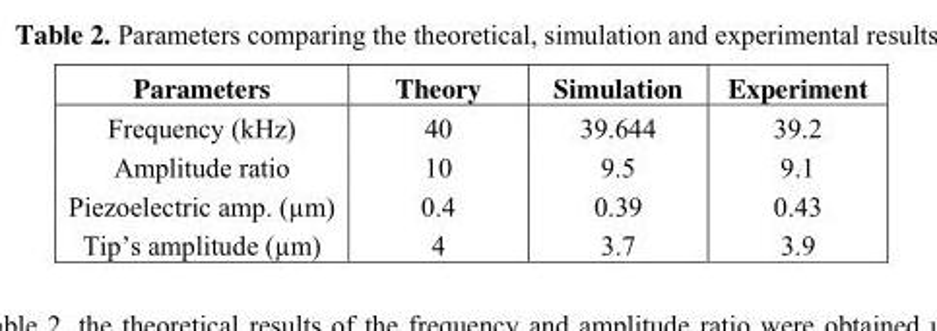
<table><thead><tr><td>Parameters</td><td>Theory</td><td>Simulation</td><td>Experiment</td></tr></thead><tbody><tr><td>Frequency (kHz)</td><td>40</td><td>39.644</td><td>39.2</td></tr><tr><td>Amplitude ratio</td><td>10</td><td>9.5</td><td>9.1</td></tr><tr><td>Piezoelectric amp. (µm)</td><td>0.4</td><td>0.39</td><td>0.43</td></tr><tr><td>Tip’s amplitude (µm)</td><td>4</td><td>3.7</td><td>3.9</td></tr></tbody></table>